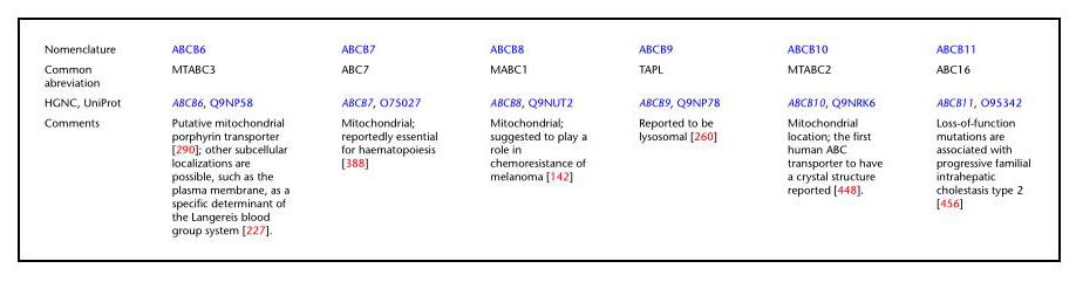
<table><tbody><tr><td>Nomenclature</td><td>ABCB6</td><td>ABCB7</td><td>ABCB8</td><td>ABCB9</td><td>ABCB10</td><td>ABCB11</td></tr><tr><td>Common abreviation</td><td>MTABC3</td><td>ABC7</td><td>MABC1</td><td>TAPL</td><td>MTABC2</td><td>ABC16</td></tr><tr><td>HGNC, UniProt</td><td>ABCB6, Q9NP58</td><td>ABCB7, O75027</td><td>ABCB8, Q9NUT2</td><td>ABCB9, Q9NP78</td><td>ABCB10, Q9NRK6</td><td>ABCB11, O95342</td></tr><tr><td>Comments</td><td>Putative mitochondrial porphyrin transporter [290]; other subcellular localizations are possible, such as the plasma membrane, as a specific determinant of the Langereis blood group system [227].</td><td>Mitochondrial; reportedly essential for haematopoiesis [388]</td><td>Mitochondrial; suggested to play a role in chemoresistance of melanoma [142]</td><td>Reported to be lysosomal [260]</td><td>Mitochondrial location; the first human ABC transporter to have a crystal structure reported [448].</td><td>Loss-of-function mutations are associated with progressive familial intrahepatic cholestasis type 2 [456]</td></tr></tbody></table>